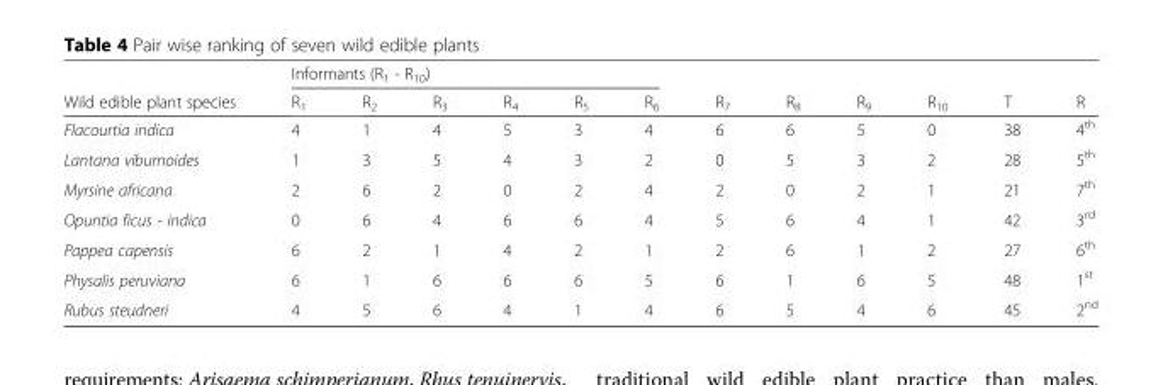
<table><thead><tr><td rowspan="2">Wild edible plant species</td><td colspan="6">Informants (R<sub>1</sub> - R<sub>10</sub>)</td><td rowspan="2">R<sub>7</sub></td><td rowspan="2">R<sub>8</sub></td><td rowspan="2">R<sub>9</sub></td><td rowspan="2">R<sub>10</sub></td><td rowspan="2">T</td><td rowspan="2">R</td></tr><tr><td>R<sub>1</sub></td><td>R<sub>2</sub></td><td>R<sub>3</sub></td><td>R<sub>4</sub></td><td>R<sub>5</sub></td><td>R<sub>6</sub></td></tr></thead><tbody><tr><td>Flacourtia indica</td><td>4</td><td>1</td><td>4</td><td>5</td><td>3</td><td>4</td><td>6</td><td>6</td><td>5</td><td>0</td><td>38</td><td>4<sup>th</sup></td></tr><tr><td>Lantana viburnoides</td><td>1</td><td>3</td><td>5</td><td>4</td><td>3</td><td>2</td><td>0</td><td>5</td><td>3</td><td>2</td><td>28</td><td>5<sup>th</sup></td></tr><tr><td>Myrsine africana</td><td>2</td><td>6</td><td>2</td><td>0</td><td>2</td><td>4</td><td>2</td><td>0</td><td>2</td><td>1</td><td>21</td><td>7<sup>th</sup></td></tr><tr><td>Opuntia ficus - indica</td><td>0</td><td>6</td><td>4</td><td>6</td><td>6</td><td>4</td><td>5</td><td>6</td><td>4</td><td>1</td><td>42</td><td>3<sup>rd</sup></td></tr><tr><td>Pappea capensis</td><td>6</td><td>2</td><td>1</td><td>4</td><td>2</td><td>1</td><td>2</td><td>6</td><td>1</td><td>2</td><td>27</td><td>6<sup>th</sup></td></tr><tr><td>Physalis peruviana</td><td>6</td><td>1</td><td>6</td><td>6</td><td>6</td><td>5</td><td>6</td><td>1</td><td>6</td><td>5</td><td>48</td><td>1<sup>st</sup></td></tr><tr><td>Rubus steudneri</td><td>4</td><td>5</td><td>6</td><td>4</td><td>1</td><td>4</td><td>6</td><td>5</td><td>4</td><td>6</td><td>45</td><td>2<sup>nd</sup></td></tr></tbody></table>